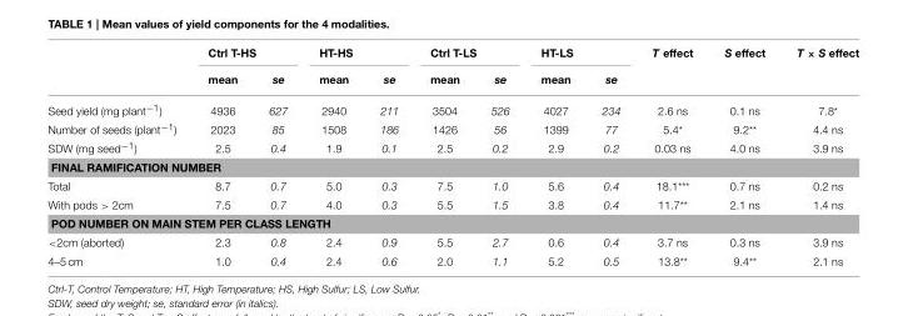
<table><thead><tr><td rowspan="2"></td><td colspan="2">Ctrl T-HS</td><td colspan="2">HT-HS</td><td colspan="2">Ctrl T-LS</td><td colspan="2">HT-LS</td><td rowspan="2">T effect</td><td rowspan="2">S effect</td><td rowspan="2">T × S effect</td></tr><tr><td>mean</td><td>se</td><td>mean</td><td>se</td><td>mean</td><td>se</td><td>mean</td><td>se</td></tr></thead><tbody><tr><td>Seed yield (mg plant<sup>−1</sup>)</td><td>4936</td><td>627</td><td>2940</td><td>211</td><td>3504</td><td>526</td><td>4027</td><td>234</td><td>2.6 ns</td><td>0.1 ns</td><td>7.8*</td></tr><tr><td>Number of seeds (plant<sup>−1</sup>)</td><td>2023</td><td>85</td><td>1508</td><td>186</td><td>1426</td><td>56</td><td>1399</td><td>77</td><td>5.4*</td><td>9.2**</td><td>4.4 ns</td></tr><tr><td>SDW (mg seed<sup>−1</sup>)</td><td>2.5</td><td>0.4</td><td>1.9</td><td>0.1</td><td>2.5</td><td>0.2</td><td>2.9</td><td>0.2</td><td>0.03 ns</td><td>4.0 ns</td><td>3.9 ns</td></tr><tr><td colspan="12">FINAL RAMIFICATION NUMBER</td></tr><tr><td>Total</td><td>8.7</td><td>0.7</td><td>5.0</td><td>0.3</td><td>7.5</td><td>1.0</td><td>5.6</td><td>0.4</td><td>18.1***</td><td>0.7 ns</td><td>0.2 ns</td></tr><tr><td>With pods &gt; 2cm</td><td>7.5</td><td>0.7</td><td>4.0</td><td>0.3</td><td>5.5</td><td>1.5</td><td>3.8</td><td>0.4</td><td>11.7**</td><td>2.1 ns</td><td>1.4 ns</td></tr><tr><td colspan="12">POD NUMBER ON MAIN STEM PER CLASS LENGTH</td></tr><tr><td>&lt;2cm (aborted)</td><td>2.3</td><td>0.8</td><td>2.4</td><td>0.9</td><td>5.5</td><td>2.7</td><td>0.6</td><td>0.4</td><td>3.7 ns</td><td>0.3 ns</td><td>3.9 ns</td></tr><tr><td>4–5 cm</td><td>1.0</td><td>0.4</td><td>2.4</td><td>0.6</td><td>2.0</td><td>1.1</td><td>5.2</td><td>0.5</td><td>13.8**</td><td>9.4**</td><td>2.1 ns</td></tr></tbody></table>